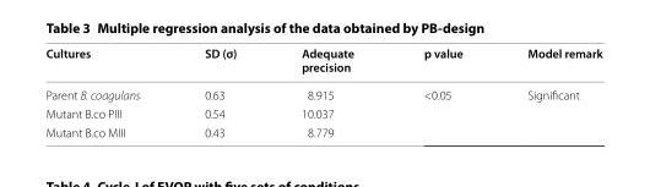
<table><thead><tr><td>Cultures</td><td>SD (σ)</td><td>Adequate precision</td><td>p value</td><td>Model remark</td></tr></thead><tbody><tr><td>Parent B. coagulans</td><td>0.63</td><td>8.915</td><td rowspan="3">&lt;0.05</td><td rowspan="3">Significant</td></tr><tr><td>Mutant B.co PIII</td><td>0.54</td><td>10.037</td></tr><tr><td>Mutant B.co MIII</td><td>0.43</td><td>8.779</td></tr></tbody></table>